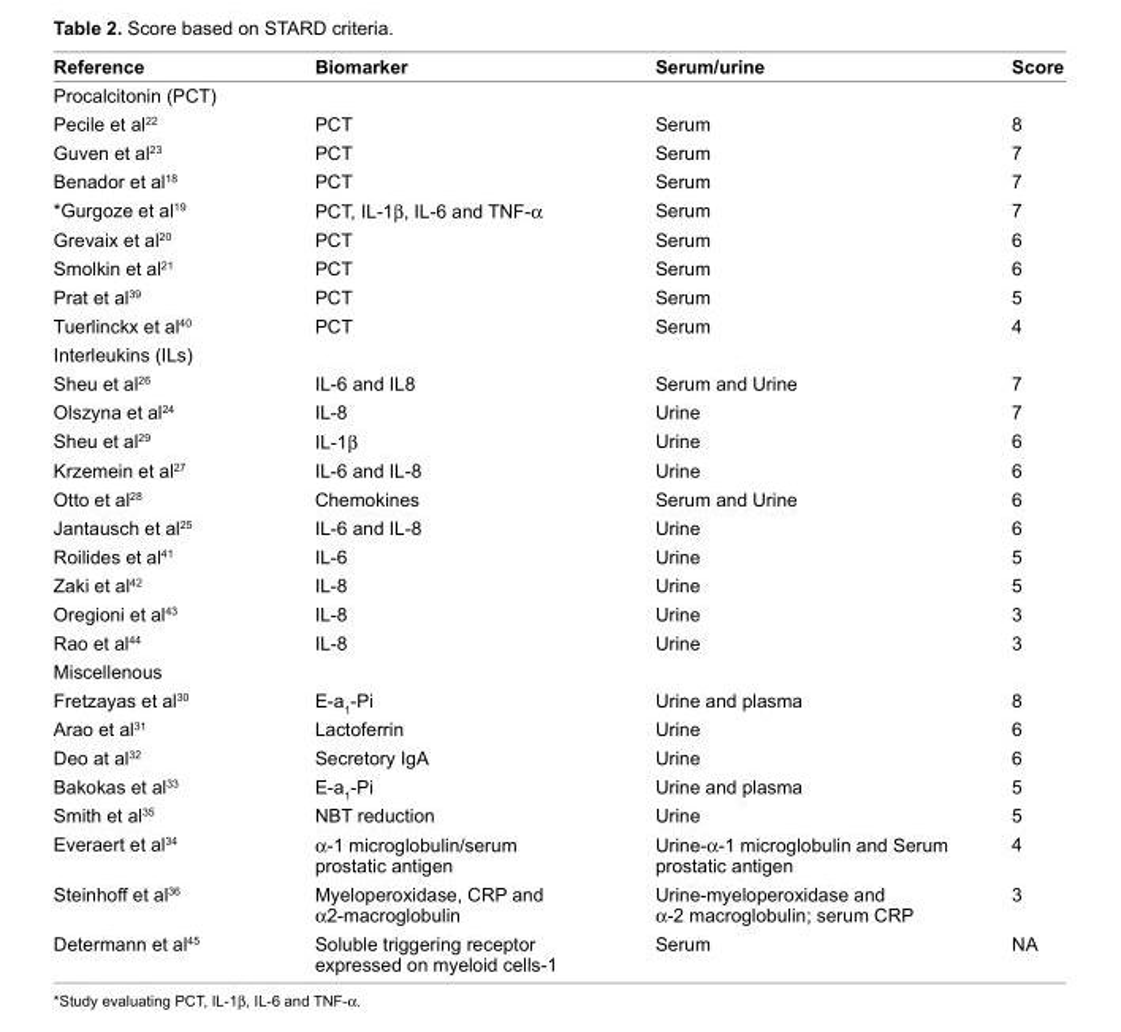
<table><thead><tr><td>Reference</td><td>Biomarker</td><td>serum/urine</td><td>score</td></tr></thead><tbody><tr><td colspan="4">Procalcitonin (PCT)</td></tr><tr><td>Pecile et al<sup>22</sup></td><td>PCT</td><td>Serum</td><td>8</td></tr><tr><td>Guven et al<sup>23</sup></td><td>PCT</td><td>Serum</td><td>7</td></tr><tr><td>Benador et al<sup>18</sup></td><td>PCT</td><td>Serum</td><td>7</td></tr><tr><td>*Gurgoze et al<sup>19</sup></td><td>PCT, IL-1β, IL-6 and TNF-α</td><td>Serum</td><td>7</td></tr><tr><td>Grevaix et al<sup>20</sup></td><td>PCT</td><td>Serum</td><td>6</td></tr><tr><td>Smolkin et al<sup>21</sup></td><td>PCT</td><td>Serum</td><td>6</td></tr><tr><td>Prat et al<sup>39</sup></td><td>PCT</td><td>Serum</td><td>5</td></tr><tr><td>Tuerlinckx et al<sup>40</sup></td><td>PCT</td><td>Serum</td><td>4</td></tr><tr><td colspan="4">Interleukins (ILs)</td></tr><tr><td>Sheu et al<sup>26</sup></td><td>IL-6 and IL8</td><td>Serum and Urine</td><td>7</td></tr><tr><td>Olszyna et al<sup>24</sup></td><td>IL-8</td><td>Urine</td><td>7</td></tr><tr><td>Sheu et al<sup>29</sup></td><td>IL-1β</td><td>Urine</td><td>6</td></tr><tr><td>Krzemein et al<sup>27</sup></td><td>IL-6 and IL-8</td><td>Urine</td><td>6</td></tr><tr><td>Otto et al<sup>28</sup></td><td>Chemokines</td><td>Serum and Urine</td><td>6</td></tr><tr><td>Jantausch et al<sup>25</sup></td><td>IL-6 and IL-8</td><td>Urine</td><td>6</td></tr><tr><td>Roilides et al<sup>41</sup></td><td>IL-6</td><td>Urine</td><td>5</td></tr><tr><td>Zaki et al<sup>42</sup></td><td>IL-8</td><td>Urine</td><td>5</td></tr><tr><td>Oregioni et al<sup>43</sup></td><td>IL-8</td><td>Urine</td><td>3</td></tr><tr><td>Rao et al<sup>44</sup></td><td>IL-8</td><td>Urine</td><td>3</td></tr><tr><td colspan="4">Miscellenous</td></tr><tr><td>Fretzayas et al<sup>30</sup></td><td>e-a<sub>1</sub>-Pi</td><td>Urine and plasma</td><td>8</td></tr><tr><td>Arao et al<sup>31</sup></td><td>Lactoferrin</td><td>Urine</td><td>6</td></tr><tr><td>Deo at al<sup>32</sup></td><td>Secretory IgA</td><td>Urine</td><td>6</td></tr><tr><td>Bakokas et al<sup>33</sup></td><td>e-a<sub>1</sub>-Pi</td><td>Urine and plasma</td><td>5</td></tr><tr><td>Smith et al<sup>35</sup></td><td>NBT reduction</td><td>Urine</td><td>5</td></tr><tr><td>everaert et al<sup>34</sup></td><td>α-1 microglobulin/serum prostatic antigen</td><td>Urine-α-1 microglobulin and Serum prostatic antigen</td><td>4</td></tr><tr><td>Steinhoff et al<sup>36</sup></td><td>Myeloperoxidase, CRP and α2-macroglobulin</td><td>Urine-myeloperoxidase and α-2 macroglobulin; serum CRP</td><td>3</td></tr><tr><td>Determann et al<sup>45</sup></td><td>Soluble triggering receptor expressed on myeloid cells-1</td><td>Serum</td><td>NA</td></tr></tbody></table>